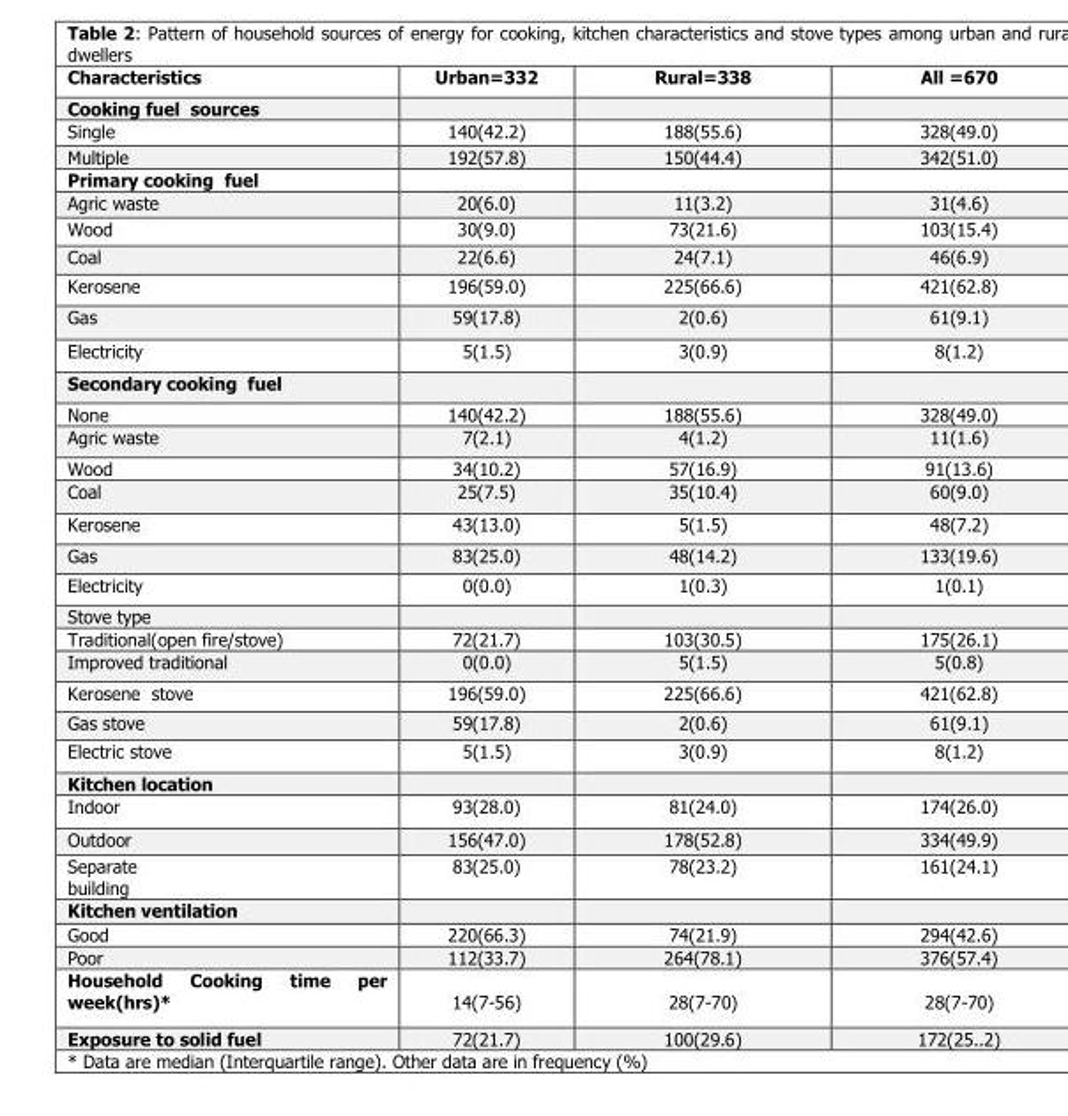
<table><thead><tr><td>Characteristics</td><td>Urban=332</td><td>Rural=338</td><td>All =670</td></tr></thead><tbody><tr><td colspan="4">Cooking fuel sources</td></tr><tr><td>Single</td><td>140(42.2)</td><td>188(55.6)</td><td>328(49.0)</td></tr><tr><td>Multiple</td><td>192(57.8)</td><td>150(44.4)</td><td>342(51.0)</td></tr><tr><td colspan="4">Primary cooking fuel</td></tr><tr><td>Agric waste</td><td>20(6.0)</td><td>11(3.2)</td><td>31(4.6)</td></tr><tr><td>Wood</td><td>30(9.0)</td><td>73(21.6)</td><td>103(15.4)</td></tr><tr><td>Coal</td><td>22(6.6)</td><td>24(7.1)</td><td>46(6.9)</td></tr><tr><td>Kerosene</td><td>196(59.0)</td><td>225(66.6)</td><td>421(62.8)</td></tr><tr><td>Gas</td><td>59(17.8)</td><td>2(0.6)</td><td>61(9.1)</td></tr><tr><td>Electricity</td><td>5(1.5)</td><td>3(0.9)</td><td>8(1.2)</td></tr><tr><td colspan="4">Secondary cooking fuel</td></tr><tr><td>None</td><td>140(42.2)</td><td>188(55.6)</td><td>328(49.0)</td></tr><tr><td>Agric waste</td><td>7(2.1)</td><td>4(1.2)</td><td>11(1.6)</td></tr><tr><td>Wood</td><td>34(10.2)</td><td>57(16.9)</td><td>91(13.6)</td></tr><tr><td>Coal</td><td>25(7.5)</td><td>35(10.4)</td><td>60(9.0)</td></tr><tr><td>Kerosene</td><td>43(13.0)</td><td>5(1.5)</td><td>48(7.2)</td></tr><tr><td>Gas</td><td>83(25.0)</td><td>48(14.2)</td><td>133(19.6)</td></tr><tr><td>Electricity</td><td>0(0.0)</td><td>1(0.3)</td><td>1(0.1)</td></tr><tr><td colspan="4">Stove type</td></tr><tr><td>Traditional(open fire/stove)</td><td>72(21.7)</td><td>103(30.5)</td><td>175(26.1)</td></tr><tr><td>Improved traditional</td><td>0(0.0)</td><td>5(1.5)</td><td>5(0.8)</td></tr><tr><td>Kerosene stove</td><td>196(59.0)</td><td>225(66.6)</td><td>421(62.8)</td></tr><tr><td>Gas stove</td><td>59(17.8)</td><td>2(0.6)</td><td>61(9.1)</td></tr><tr><td>Electric stove</td><td>5(1.5)</td><td>3(0.9)</td><td>8(1.2)</td></tr><tr><td colspan="4">Kitchen location</td></tr><tr><td>Indoor</td><td>93(28.0)</td><td>81(24.0)</td><td>174(26.0)</td></tr><tr><td>Outdoor</td><td>156(47.0)</td><td>178(52.8)</td><td>334(49.9)</td></tr><tr><td>Separate building</td><td>83(25.0)</td><td>78(23.2)</td><td>161(24.1)</td></tr><tr><td colspan="4">Kitchen ventilation</td></tr><tr><td>Good</td><td>220(66.3)</td><td>74(21.9)</td><td>294(42.6)</td></tr><tr><td>Poor</td><td>112(33.7)</td><td>264(78.1)</td><td>376(57.4)</td></tr><tr><td>Household Cooking time per week(hrs)*</td><td>14(7-56)</td><td>28(7-70)</td><td>28(7-70)</td></tr><tr><td>Exposure to solid fuel</td><td>72(21.7)</td><td>100(29.6)</td><td>172(25..2)</td></tr></tbody></table>